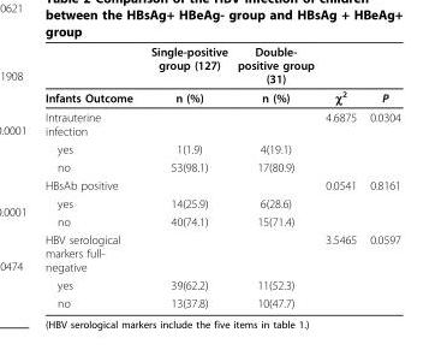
<table><thead><tr><td rowspan="2">Infants Outcome</td><td rowspan="2">Single-positive group (127) n (%)</td><td rowspan="2">Double- positive group (31) n (%)</td><td rowspan="2">χ<sup>2</sup></td><td rowspan="2">P</td></tr><tr></tr></thead><tbody><tr><td>Intrauterine infection</td><td></td><td></td><td>4.6875</td><td>0.0304</td></tr><tr><td>yes</td><td>1(1.9)</td><td>4(19.1)</td><td></td><td></td></tr><tr><td>no</td><td>53(98.1)</td><td>17(80.9)</td><td></td><td></td></tr><tr><td>HBsAb positive</td><td></td><td></td><td>0.0541</td><td>0.8161</td></tr><tr><td>yes</td><td>14(25.9)</td><td>6(28.6)</td><td></td><td></td></tr><tr><td>no</td><td>40(74.1)</td><td>15(71.4)</td><td></td><td></td></tr><tr><td>HBV serological markers full- negative</td><td></td><td></td><td>3.5465</td><td>0.0597</td></tr><tr><td>yes</td><td>39(62.2)</td><td>11(52.3)</td><td></td><td></td></tr><tr><td>no</td><td>13(37.8)</td><td>10(47.7)</td><td></td><td></td></tr></tbody></table>